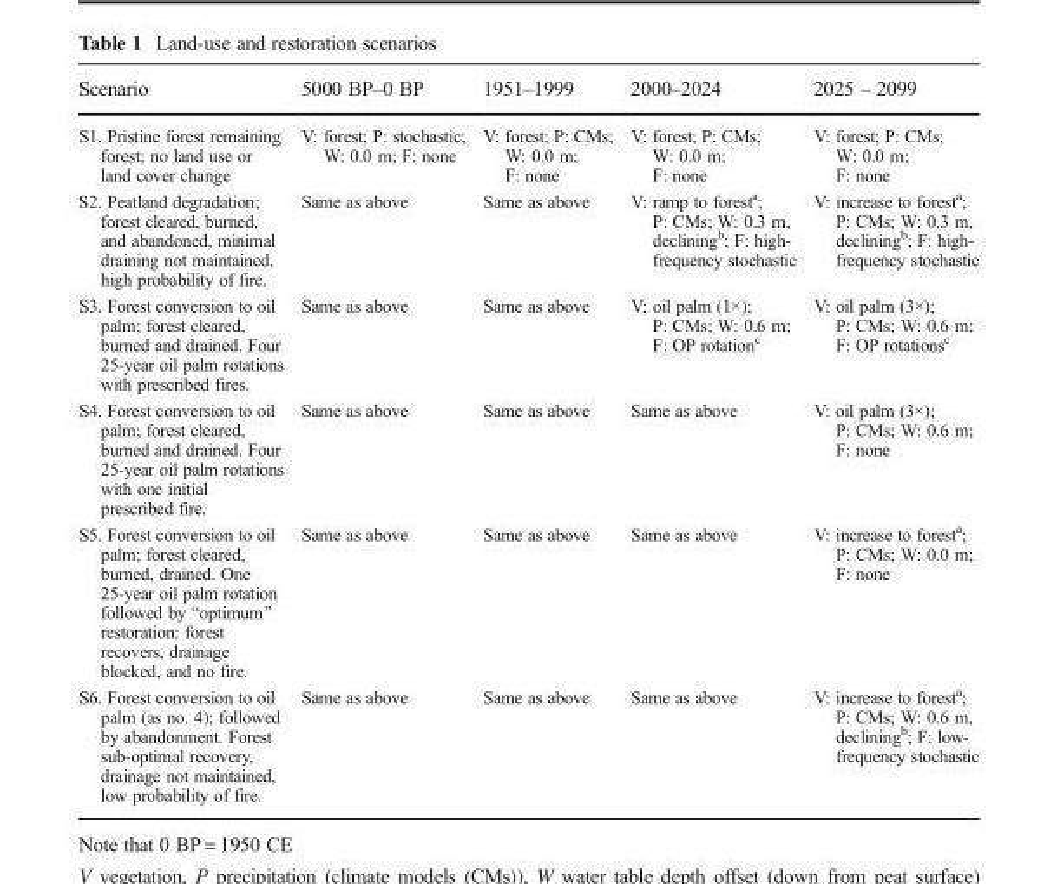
<table><thead><tr><td>Scenario</td><td>5000 BP–0 BP</td><td>1951–1999</td><td>2000–2024</td><td>2025 – 2099</td></tr></thead><tbody><tr><td>S1. Pristine forest remaining forest; no land use or land cover change</td><td>V: forest; P: stochastic; W: 0.0 m; F: none</td><td>V: forest; P: CMs; W: 0.0 m; F: none</td><td>V: forest; P: CMs; W: 0.0 m; F: none</td><td>V: forest; P: CMs; W: 0.0 m; F: none</td></tr><tr><td>S2. Peatland degradation; forest cleared, burned, and abandoned, minimal draining not maintained, high probability of fire.</td><td>Same as above</td><td>Same as above</td><td>V: ramp to forest<sup>a</sup>; P: CMs; W: 0.3 m, declining<sup>b</sup>; F: high- frequency stochastic</td><td>V: increase to forest<sup>a</sup>; P: CMs; W: 0.3 m, declining<sup>b</sup>; F: high- frequency stochastic</td></tr><tr><td>S3. Forest conversion to oil palm; forest cleared, burned and drained. Four 25-year oil palm rotations with prescribed fires.</td><td>Same as above</td><td>Same as above</td><td>V: oil palm (1×); P: CMs; W: 0.6 m; F: OP rotation<sup>c</sup></td><td>V: oil palm (3×); P: CMs; W: 0.6 m; F: OP rotations<sup>c</sup></td></tr><tr><td>S4. Forest conversion to oil palm; forest cleared, burned and drained. Four 25-year oil palm rotations with one initial prescribed fire.</td><td>Same as above</td><td>Same as above</td><td>Same as above</td><td>V: oil palm (3×); P: CMs; W: 0.6 m; F: none</td></tr><tr><td>S5. Forest conversion to oil palm; forest cleared, burned, drained. One 25-year oil palm rotation followed by “optimum” restoration: forest recovers, drainage blocked, and no fire.</td><td>Same as above</td><td>Same as above</td><td>Same as above</td><td>V: increase to forest<sup>a</sup>; P: CMs; W: 0.0 m; F: none</td></tr><tr><td>S6. Forest conversion to oil palm (as no. 4); followed by abandonment. Forest sub-optimal recovery, drainage not maintained, low probability of fire.</td><td>Same as above</td><td>Same as above</td><td>Same as above</td><td>V: increase to forest<sup>a</sup>; P: CMs; W: 0.6 m, declining<sup>b</sup>; F: low- frequency stochastic</td></tr></tbody></table>